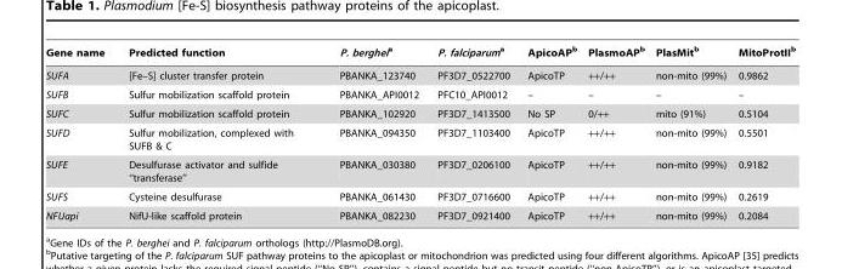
<table><thead><tr><td>Gene name</td><td>Predicted function</td><td>P. bergheia</td><td>P. falciparuma</td><td>ApicoAP<sup>b</sup></td><td>PlasmoAP<sup>b</sup></td><td>PlasMit<sup>b</sup></td><td>MitoProtII<sup>b</sup></td></tr></thead><tbody><tr><td>SUFA</td><td>[Fe–S] cluster transfer protein</td><td>PBANKA_123740</td><td>PF3D7_0522700</td><td>ApicoTP</td><td>++/++</td><td>non-mito (99%)</td><td>0.9862</td></tr><tr><td>SUFB</td><td>Sulfur mobilization scaffold protein</td><td>PBANKA_API0012</td><td>PFC10_API0012</td><td>–</td><td>–</td><td>–</td><td>–</td></tr><tr><td>SUFC</td><td>Sulfur mobilization scaffold protein</td><td>PBANKA_102920</td><td>PF3D7_1413500</td><td>No SP</td><td>0/++</td><td>mito (91%)</td><td>0.5104</td></tr><tr><td>SUFD</td><td>Sulfur mobilization, complexed with SUFB &amp; C</td><td>PBANKA_094350</td><td>PF3D7_1103400</td><td>ApicoTP</td><td>++/++</td><td>non-mito (99%)</td><td>0.5501</td></tr><tr><td>SUFE</td><td>Desulfurase activator and sulfide ‘‘transferase’’</td><td>PBANKA_030380</td><td>PF3D7_0206100</td><td>ApicoTP</td><td>++/++</td><td>non-mito (99%)</td><td>0.9182</td></tr><tr><td>SUFS</td><td>Cysteine desulfurase</td><td>PBANKA_061430</td><td>PF3D7_0716600</td><td>ApicoTP</td><td>++/++</td><td>non-mito (99%)</td><td>0.2619</td></tr><tr><td>NFUapi</td><td>NifU-like scaffold protein</td><td>PBANKA_082230</td><td>PF3D7_0921400</td><td>ApicoTP</td><td>++/++</td><td>non-mito (99%)</td><td>0.2084</td></tr></tbody></table>